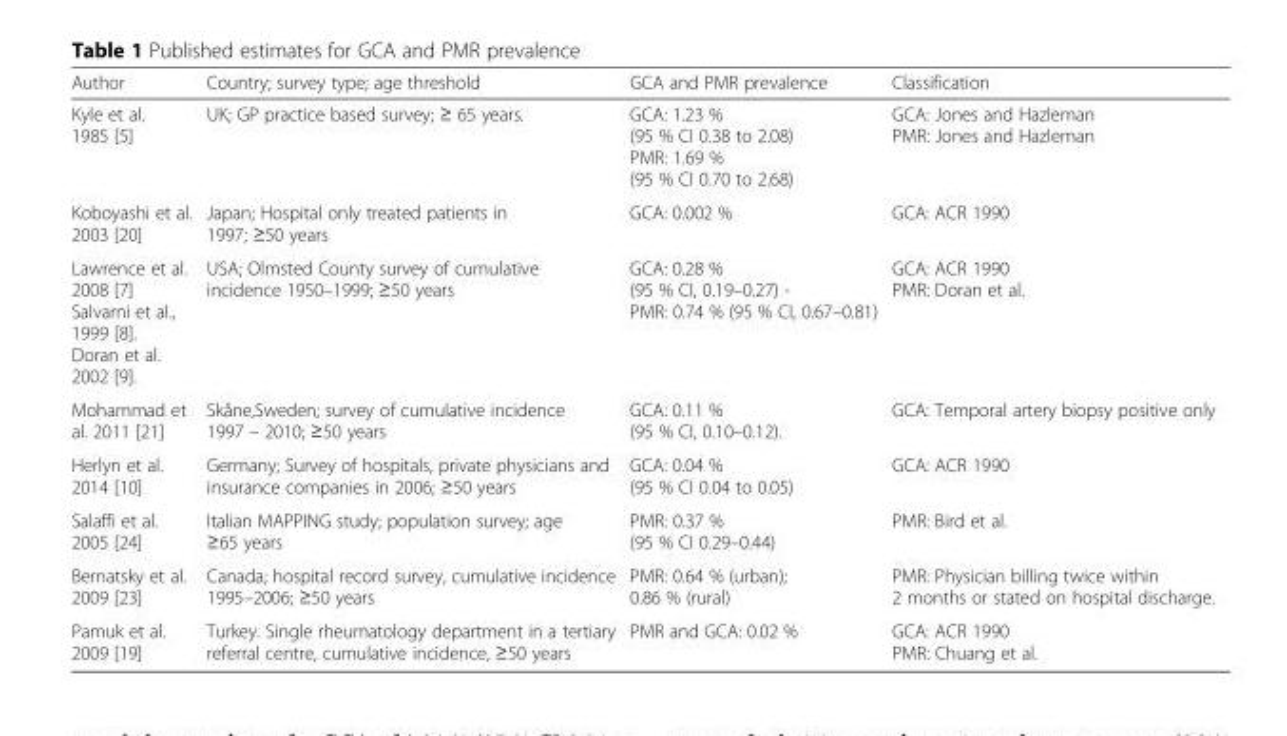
<table><thead><tr><td>Author</td><td>Country; survey type; age threshold</td><td>GCA and PMR prevalence</td><td>Classification</td></tr></thead><tbody><tr><td>Kyle et al. 1985 [5]</td><td>UK; GP practice based survey; ≥ 65 years.</td><td>GCA: 1.23 % (95 % CI 0.38 to 2.08) PMR: 1.69 % (95 % CI 0.70 to 2.68)</td><td>GCA: Jones and Hazleman PMR: Jones and Hazleman</td></tr><tr><td>Koboyashi et al. 2003 [20]</td><td>Japan; Hospital only treated patients in 1997; ≥50 years</td><td>GCA: 0.002 %</td><td>GCA: ACR 1990</td></tr><tr><td>Lawrence et al. 2008 [7] Salvarni et al., 1999 [8]. Doran et al. 2002 [9].</td><td>USA; Olmsted County survey of cumulative incidence 1950–1999; ≥50 years</td><td>GCA: 0.28 % (95 % CI, 0.19–0.27) - PMR: 0.74 % (95 % CI, 0.67–0.81)</td><td>GCA: ACR 1990 PMR: Doran et al.</td></tr><tr><td>Mohammad et al. 2011 [21]</td><td>Skåne,Sweden; survey of cumulative incidence 1997 – 2010; ≥50 years</td><td>GCA: 0.11 % (95 % CI, 0.10–0.12).</td><td>GCA: Temporal artery biopsy positive only</td></tr><tr><td>Herlyn et al. 2014 [10]</td><td>Germany; Survey of hospitals, private physicians and insurance companies in 2006; ≥50 years</td><td>GCA: 0.04 % (95 % CI 0.04 to 0.05)</td><td>GCA: ACR 1990</td></tr><tr><td>Salaffi et al. 2005 [24]</td><td>Italian MAPPING study; population survey; age ≥65 years</td><td>PMR: 0.37 % (95 % CI 0.29–0.44)</td><td>PMR: Bird et al.</td></tr><tr><td>Bernatsky et al. 2009 [23]</td><td>Canada; hospital record survey, cumulative incidence 1995–2006; ≥50 years</td><td>PMR: 0.64 % (urban); 0.86 % (rural)</td><td>PMR: Physician billing twice within 2 months or stated on hospital discharge.</td></tr><tr><td>Pamuk et al. 2009 [19]</td><td>Turkey. Single rheumatology department in a tertiary referral centre, cumulative incidence, ≥50 years</td><td>PMR and GCA: 0.02 %</td><td>GCA: ACR 1990 PMR: Chuang et al.</td></tr></tbody></table>